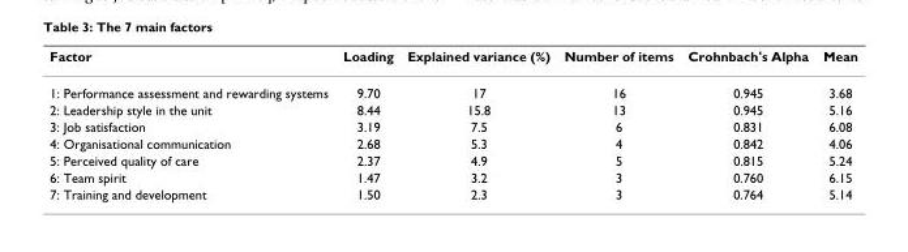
<table><thead><tr><td>Factor</td><td>Loading</td><td>Explained variance (%)</td><td>Number of items</td><td>Crohnbach&#x27;s Alpha</td><td>Mean</td></tr></thead><tbody><tr><td>1: Performance assessment and rewarding systems</td><td>9.70</td><td>17</td><td>16</td><td>0.945</td><td>3.68</td></tr><tr><td>2: Leadership style in the unit</td><td>8.44</td><td>15.8</td><td>13</td><td>0.945</td><td>5.16</td></tr><tr><td>3: Job satisfaction</td><td>3.19</td><td>7.5</td><td>6</td><td>0.831</td><td>6.08</td></tr><tr><td>4: Organisational communication</td><td>2.68</td><td>5.3</td><td>4</td><td>0.842</td><td>4.06</td></tr><tr><td>5: Perceived quality of care</td><td>2.37</td><td>4.9</td><td>5</td><td>0.815</td><td>5.24</td></tr><tr><td>6: Team spirit</td><td>1.47</td><td>3.2</td><td>3</td><td>0.760</td><td>6.15</td></tr><tr><td>7: Training and development</td><td>1.50</td><td>2.3</td><td>3</td><td>0.764</td><td>5.14</td></tr></tbody></table>